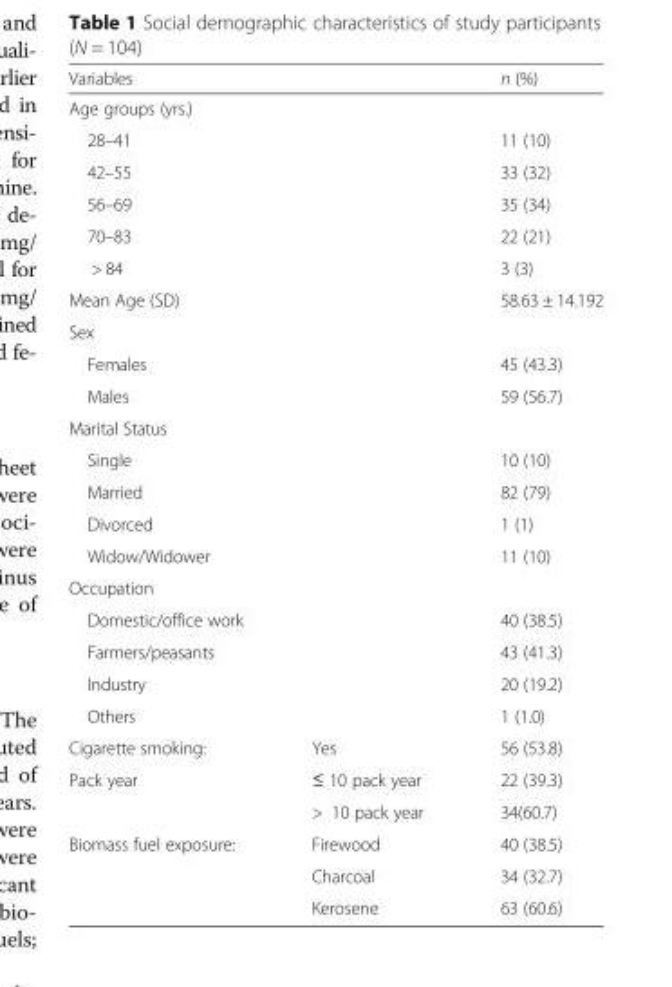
<table><thead><tr><td colspan="2">Variables</td><td>n (%)</td></tr></thead><tbody><tr><td colspan="3">Age groups (yrs.)</td></tr><tr><td colspan="2">28–41</td><td>11 (10)</td></tr><tr><td colspan="2">42–55</td><td>33 (32)</td></tr><tr><td colspan="2">56–69</td><td>35 (34)</td></tr><tr><td colspan="2">70–83</td><td>22 (21)</td></tr><tr><td colspan="2">&gt; 84</td><td>3 (3)</td></tr><tr><td colspan="2">Mean Age (SD)</td><td>58.63 ± 14.192</td></tr><tr><td colspan="3">Sex</td></tr><tr><td colspan="2">Females</td><td>45 (43.3)</td></tr><tr><td colspan="2">Males</td><td>59 (56.7)</td></tr><tr><td colspan="3">Marital Status</td></tr><tr><td colspan="2">Single</td><td>10 (10)</td></tr><tr><td colspan="2">Married</td><td>82 (79)</td></tr><tr><td colspan="2">Divorced</td><td>1 (1)</td></tr><tr><td colspan="2">Widow/Widower</td><td>11 (10)</td></tr><tr><td colspan="3">Occupation</td></tr><tr><td colspan="2">Domestic/office work</td><td>40 (38.5)</td></tr><tr><td colspan="2">Farmers/peasants</td><td>43 (41.3)</td></tr><tr><td colspan="2">Industry</td><td>20 (19.2)</td></tr><tr><td colspan="2">Others</td><td>1 (1.0)</td></tr><tr><td>Cigarette smoking:</td><td>Yes</td><td>56 (53.8)</td></tr><tr><td rowspan="2">Pack year</td><td>≤ 10 pack year</td><td>22 (39.3)</td></tr><tr><td>&gt; 10 pack year</td><td>34(60.7)</td></tr><tr><td rowspan="3">Biomass fuel exposure:</td><td>Firewood</td><td>40 (38.5)</td></tr><tr><td>Charcoal</td><td>34 (32.7)</td></tr><tr><td>Kerosene</td><td>63 (60.6)</td></tr></tbody></table>